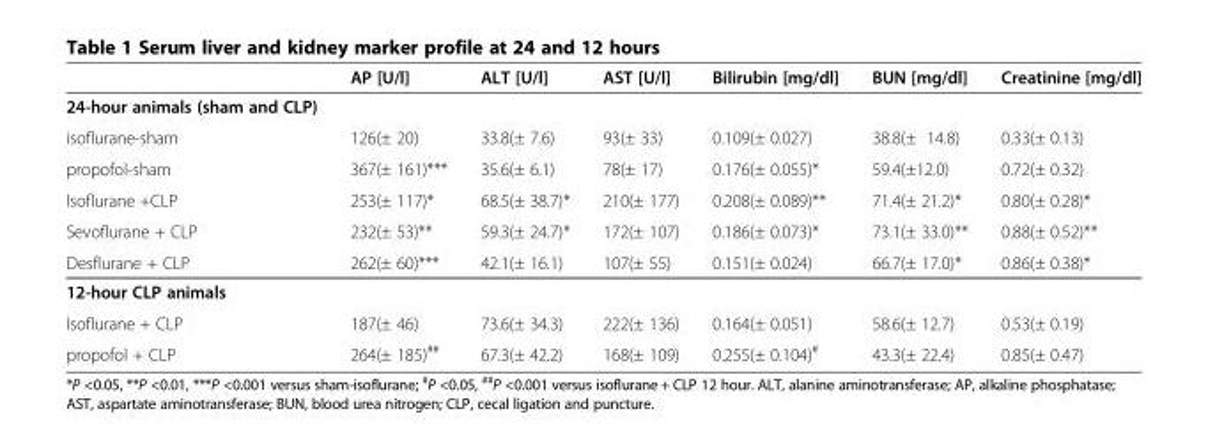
<table><thead><tr><td></td><td>AP [U/l]</td><td>ALT [U/l]</td><td>AST [U/l]</td><td>Bilirubin [mg/dl]</td><td>BUN [mg/dl]</td><td>Creatinine [mg/dl]</td></tr></thead><tbody><tr><td colspan="7">24-hour animals (sham and CLP)</td></tr><tr><td>isoflurane-sham</td><td>126(± 20)</td><td>33.8(± 7.6)</td><td>93(± 33)</td><td>0.109(± 0.027)</td><td>38.8(± 14.8)</td><td>0.33(± 0.13)</td></tr><tr><td>propofol-sham</td><td>367(± 161)***</td><td>35.6(± 6.1)</td><td>78(± 17)</td><td>0.176(± 0.055)*</td><td>59.4(±12.0)</td><td>0.72(± 0.32)</td></tr><tr><td>Isoflurane +CLP</td><td>253(± 117)*</td><td>68.5(± 38.7)*</td><td>210(± 177)</td><td>0.208(± 0.089)**</td><td>71.4(± 21.2)*</td><td>0.80(± 0.28)*</td></tr><tr><td>Sevoflurane + CLP</td><td>232(± 53)**</td><td>59.3(± 24.7)*</td><td>172(± 107)</td><td>0.186(± 0.073)*</td><td>73.1(± 33.0)**</td><td>0.88(± 0.52)**</td></tr><tr><td>Desflurane + CLP</td><td>262(± 60)***</td><td>42.1(± 16.1)</td><td>107(± 55)</td><td>0.151(± 0.024)</td><td>66.7(± 17.0)*</td><td>0.86(± 0.38)*</td></tr><tr><td colspan="7">12-hour CLP animals</td></tr><tr><td>Isoflurane + CLP</td><td>187(± 46)</td><td>73.6(± 34.3)</td><td>222(± 136)</td><td>0.164(± 0.051)</td><td>58.6(± 12.7)</td><td>0.53(± 0.19)</td></tr><tr><td>propofol + CLP</td><td>264(± 185)<sup>##</sup></td><td>67.3(± 42.2)</td><td>168(± 109)</td><td>0.255(± 0.104)<sup>#</sup></td><td>43.3(± 22.4)</td><td>0.85(± 0.47)</td></tr></tbody></table>